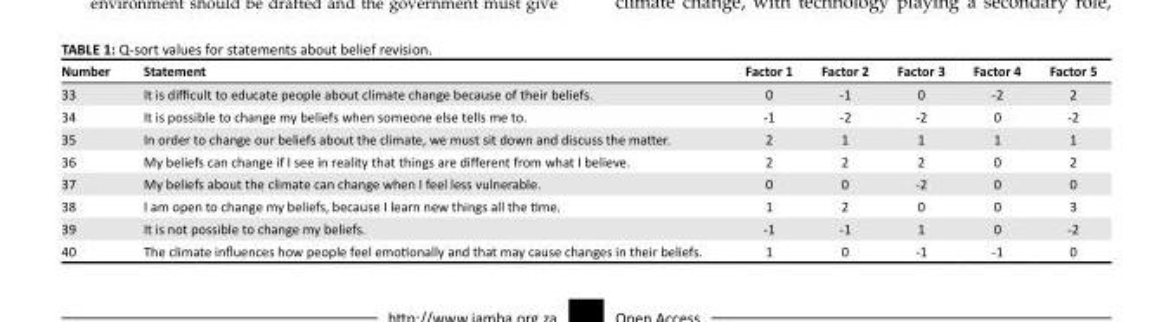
<table><thead><tr><td>Number</td><td>Statement</td><td>Factor 1</td><td>Factor 2</td><td>Factor 3</td><td>Factor 4</td><td>Factor 5</td></tr></thead><tbody><tr><td>33</td><td>It is difficult to educate people about climate change because of their beliefs.</td><td>0</td><td>-1</td><td>0</td><td>-2</td><td>2</td></tr><tr><td>34</td><td>It is possible to change my beliefs when someone else tells me to.</td><td>-1</td><td>-2</td><td>-2</td><td>0</td><td>-2</td></tr><tr><td>35</td><td>In order to change our beliefs about the climate, we must sit down and discuss the matter.</td><td>2</td><td>1</td><td>1</td><td>1</td><td>1</td></tr><tr><td>36</td><td>My beliefs can change if I see in reality that things are different from what I believe.</td><td>2</td><td>2</td><td>2</td><td>0</td><td>2</td></tr><tr><td>37</td><td>My beliefs about the climate can change when I feel less vulnerable.</td><td>0</td><td>0</td><td>-2</td><td>0</td><td>0</td></tr><tr><td>38</td><td>I am open to change my beliefs, because I learn new things all the time.</td><td>1</td><td>2</td><td>0</td><td>0</td><td>3</td></tr><tr><td>39</td><td>It is not possible to change my beliefs.</td><td>-1</td><td>-1</td><td>1</td><td>0</td><td>-2</td></tr><tr><td>40</td><td>The climate influences how people feel emotionally and that may cause changes in their beliefs.</td><td>1</td><td>0</td><td>-1</td><td>-1</td><td>0</td></tr></tbody></table>